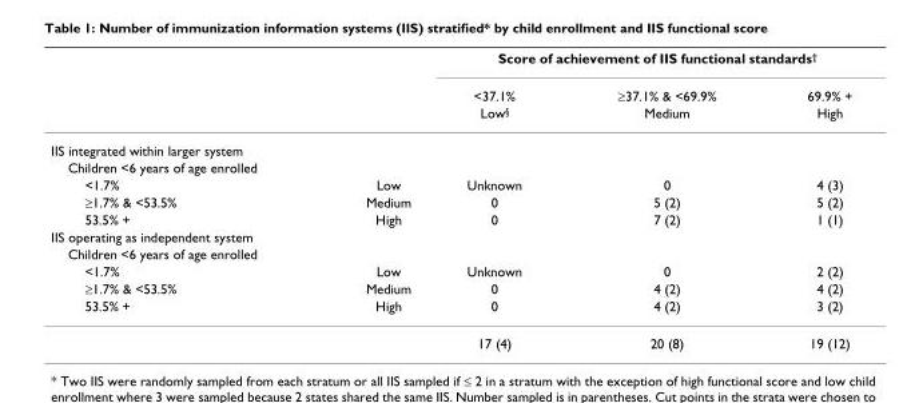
<table><thead><tr><td rowspan="3"></td><td rowspan="3"></td><td colspan="3">Score of achievement of IIS functional standards<sup>†</sup></td></tr><tr><td rowspan="2">&lt;37.1% Low<sup>§</sup></td><td rowspan="2">≥37.1% &amp; &lt;69.9% Medium</td><td rowspan="2">69.9% + High</td></tr><tr></tr></thead><tbody><tr><td colspan="5">IIS integrated within larger system</td></tr><tr><td colspan="5">Children &lt;6 years of age enrolled</td></tr><tr><td>&lt;1.7%</td><td>Low</td><td>Unknown</td><td>0</td><td>4 (3)</td></tr><tr><td>≥1.7% &amp; &lt;53.5%</td><td>Medium</td><td>0</td><td>5 (2)</td><td>5 (2)</td></tr><tr><td>53.5% +</td><td>High</td><td>0</td><td>7 (2)</td><td>1 (1)</td></tr><tr><td colspan="5">IIS operating as independent system</td></tr><tr><td colspan="5">Children &lt;6 years of age enrolled</td></tr><tr><td>&lt;1.7%</td><td>Low</td><td>Unknown</td><td>0</td><td>2 (2)</td></tr><tr><td>≥1.7% &amp; &lt;53.5%</td><td>Medium</td><td>0</td><td>4 (2)</td><td>4 (2)</td></tr><tr><td rowspan="2">53.5% +</td><td>High</td><td>0</td><td>4 (2)</td><td>3 (2)</td></tr><tr><td></td><td>17 (4)</td><td>20 (8)</td><td>19 (12)</td></tr></tbody></table>